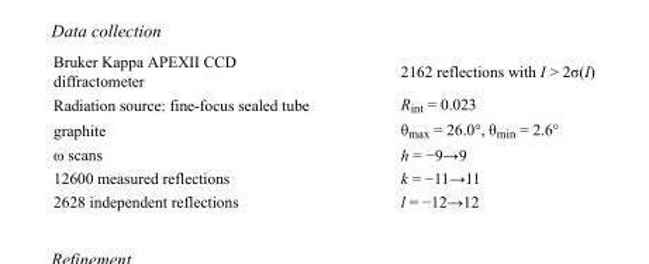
<table><tbody><tr><td>Bruker Kappa APEXII CCD diffractometer</td><td>2162 reflections with I &gt; 2σ(I)</td></tr><tr><td>Radiation source: fine-focus sealed tube</td><td>R<sub>int</sub> = 0.023</td></tr><tr><td>graphite</td><td>θ<sub>max</sub> = 26.0°, θ<sub>min</sub> = 2.6°</td></tr><tr><td>ω scans</td><td>h = −9→9</td></tr><tr><td>12600 measured reflections</td><td>k = −11→11</td></tr><tr><td>2628 independent reflections</td><td>l = −12→12</td></tr></tbody></table>